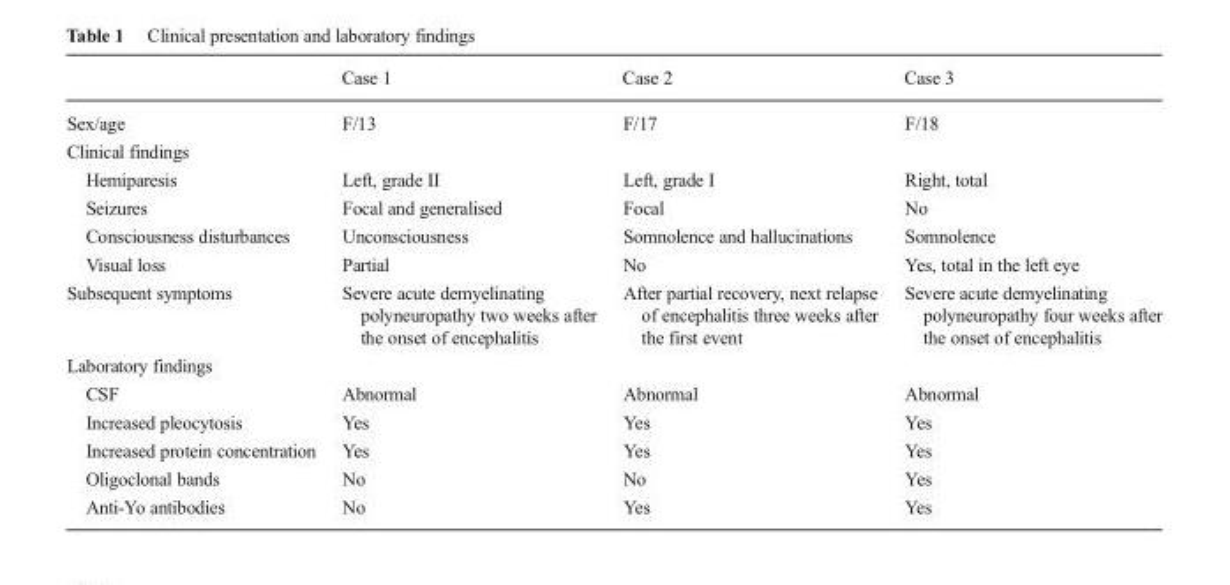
<table><thead><tr><td></td><td>Case 1</td><td>Case 2</td><td>Case 3</td></tr></thead><tbody><tr><td>Sex/age</td><td>F/13</td><td>F/17</td><td>F/18</td></tr><tr><td colspan="4">Clinical findings</td></tr><tr><td>Hemiparesis</td><td>Left, grade II</td><td>Left, grade I</td><td>Right, total</td></tr><tr><td>Seizures</td><td>Focal and generalised</td><td>Focal</td><td>No</td></tr><tr><td>Consciousness disturbances</td><td>Unconsciousness</td><td>Somnolence and hallucinations</td><td>Somnolence</td></tr><tr><td>Visual loss</td><td>Partial</td><td>No</td><td>Yes, total in the left eye</td></tr><tr><td>Subsequent symptoms</td><td>Severe acute demyelinating polyneuropathy two weeks after the onset of encephalitis</td><td>After partial recovery, next relapse of encephalitis three weeks after the first event</td><td>Severe acute demyelinating polyneuropathy four weeks after the onset of encephalitis</td></tr><tr><td colspan="4">Laboratory findings</td></tr><tr><td>CSF</td><td>Abnormal</td><td>Abnormal</td><td>Abnormal</td></tr><tr><td>Increased pleocytosis</td><td>Yes</td><td>Yes</td><td>Yes</td></tr><tr><td>Increased protein concentration</td><td>Yes</td><td>Yes</td><td>Yes</td></tr><tr><td>Oligoclonal bands</td><td>No</td><td>No</td><td>Yes</td></tr><tr><td>Anti-Yo antibodies</td><td>No</td><td>Yes</td><td>Yes</td></tr></tbody></table>